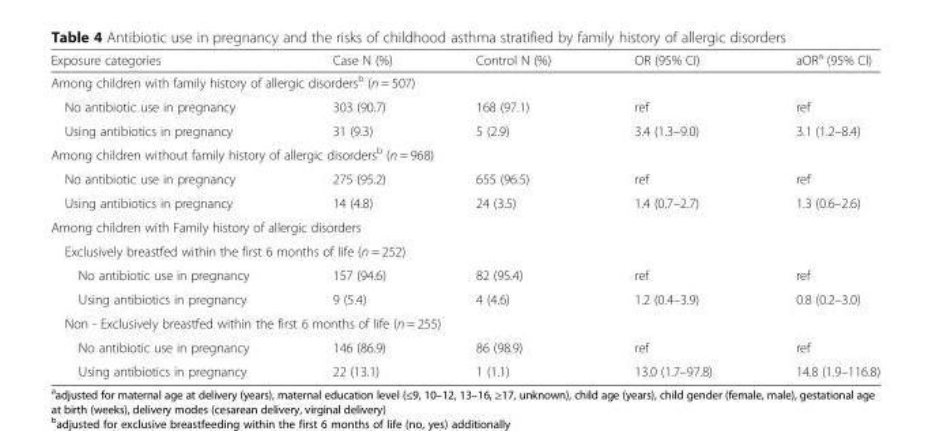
<table><thead><tr><td>Exposure categories</td><td>Case N (%)</td><td>Control N (%)</td><td>OR (95% CI)</td><td>aOR<sup>a</sup> (95% CI)</td></tr></thead><tbody><tr><td colspan="5">Among children with family history of allergic disorders<sup>b</sup> (n = 507)</td></tr><tr><td>No antibiotic use in pregnancy</td><td>303 (90.7)</td><td>168 (97.1)</td><td>ref</td><td>ref</td></tr><tr><td>Using antibiotics in pregnancy</td><td>31 (9.3)</td><td>5 (2.9)</td><td>3.4 (1.3–9.0)</td><td>3.1 (1.2–8.4)</td></tr><tr><td colspan="5">Among children without family history of allergic disorders<sup>b</sup> (n = 968)</td></tr><tr><td>No antibiotic use in pregnancy</td><td>275 (95.2)</td><td>655 (96.5)</td><td>ref</td><td>ref</td></tr><tr><td>Using antibiotics in pregnancy</td><td>14 (4.8)</td><td>24 (3.5)</td><td>1.4 (0.7–2.7)</td><td>1.3 (0.6–2.6)</td></tr><tr><td colspan="5">Among children with Family history of allergic disorders</td></tr><tr><td colspan="5">Exclusively breastfed within the first 6 months of life (n = 252)</td></tr><tr><td>No antibiotic use in pregnancy</td><td>157 (94.6)</td><td>82 (95.4)</td><td>ref</td><td>ref</td></tr><tr><td>Using antibiotics in pregnancy</td><td>9 (5.4)</td><td>4 (4.6)</td><td>1.2 (0.4–3.9)</td><td>0.8 (0.2–3.0)</td></tr><tr><td colspan="5">Non - Exclusively breastfed within the first 6 months of life (n = 255)</td></tr><tr><td>No antibiotic use in pregnancy</td><td>146 (86.9)</td><td>86 (98.9)</td><td>ref</td><td>ref</td></tr><tr><td>Using antibiotics in pregnancy</td><td>22 (13.1)</td><td>1 (1.1)</td><td>13.0 (1.7–97.8)</td><td>14.8 (1.9–116.8)</td></tr></tbody></table>